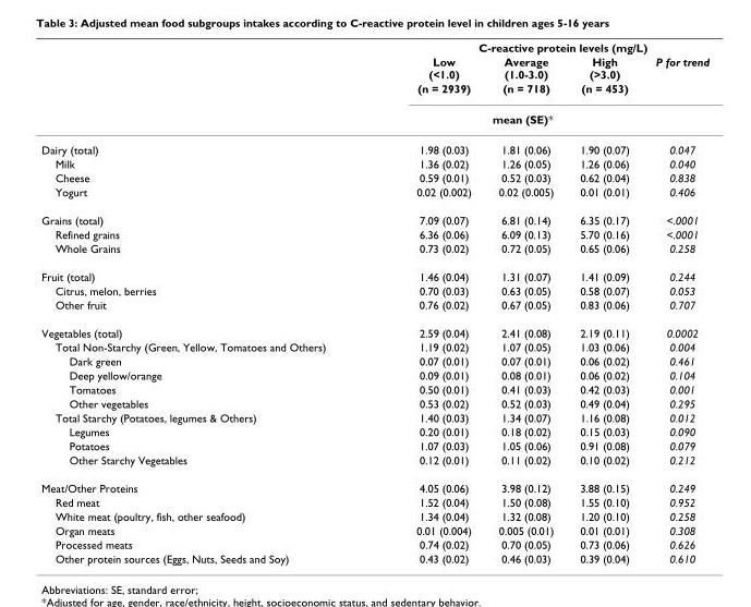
<table><thead><tr><td rowspan="4"></td><td colspan="4">C-reactive protein levels (mg/L)</td></tr><tr><td rowspan="2">Low (&lt;1.0) (n = 2939)</td><td rowspan="2">Average (1.0-3.0) (n = 718)</td><td rowspan="2">High (&gt;3.0) (n = 453)</td><td rowspan="3">P for trend</td></tr><tr></tr><tr><td colspan="3">mean (SE)*</td></tr></thead><tbody><tr><td>Dairy (total)</td><td>1.98 (0.03)</td><td>1.81 (0.06)</td><td>1.90 (0.07)</td><td>0.047</td></tr><tr><td>Milk</td><td>1.36 (0.02)</td><td>1.26 (0.05)</td><td>1.26 (0.06)</td><td>0.040</td></tr><tr><td>Cheese</td><td>0.59 (0.01)</td><td>0.52 (0.03)</td><td>0.62 (0.04)</td><td>0.838</td></tr><tr><td>Yogurt</td><td>0.02 (0.002)</td><td>0.02 (0.005)</td><td>0.01 (0.01)</td><td>0.406</td></tr><tr><td>Grains (total)</td><td>7.09 (0.07)</td><td>6.81 (0.14)</td><td>6.35 (0.17)</td><td>&lt;.0001</td></tr><tr><td>Refined grains</td><td>6.36 (0.06)</td><td>6.09 (0.13)</td><td>5.70 (0.16)</td><td>&lt;.0001</td></tr><tr><td>Whole Grains</td><td>0.73 (0.02)</td><td>0.72 (0.05)</td><td>0.65 (0.06)</td><td>0.258</td></tr><tr><td>Fruit (total)</td><td>1.46 (0.04)</td><td>1.31 (0.07)</td><td>1.41 (0.09)</td><td>0.244</td></tr><tr><td>Citrus, melon, berries</td><td>0.70 (0.03)</td><td>0.63 (0.05)</td><td>0.58 (0.07)</td><td>0.053</td></tr><tr><td>Other fruit</td><td>0.76 (0.02)</td><td>0.67 (0.05)</td><td>0.83 (0.06)</td><td>0.707</td></tr><tr><td>Vegetables (total)</td><td>2.59 (0.04)</td><td>2.41 (0.08)</td><td>2.19 (0.11)</td><td>0.0002</td></tr><tr><td>Total Non-Starchy (Green, Yellow, Tomatoes and Others)</td><td>1.19 (0.02)</td><td>1.07 (0.05)</td><td>1.03 (0.06)</td><td>0.004</td></tr><tr><td>Dark green</td><td>0.07 (0.01)</td><td>0.07 (0.01)</td><td>0.06 (0.02)</td><td>0.461</td></tr><tr><td>Deep yellow/orange</td><td>0.09 (0.01)</td><td>0.08 (0.01)</td><td>0.06 (0.02)</td><td>0.104</td></tr><tr><td>Tomatoes</td><td>0.50 (0.01)</td><td>0.41 (0.03)</td><td>0.42 (0.03)</td><td>0.001</td></tr><tr><td>Other vegetables</td><td>0.53 (0.02)</td><td>0.52 (0.03)</td><td>0.49 (0.04)</td><td>0.295</td></tr><tr><td>Total Starchy (Potatoes, legumes &amp; Others)</td><td>1.40 (0.03)</td><td>1.34 (0.07)</td><td>1.16 (0.08)</td><td>0.012</td></tr><tr><td>Legumes</td><td>0.20 (0.01)</td><td>0.18 (0.02)</td><td>0.15 (0.03)</td><td>0.090</td></tr><tr><td>Potatoes</td><td>1.07 (0.03)</td><td>1.05 (0.06)</td><td>0.91 (0.08)</td><td>0.079</td></tr><tr><td>Other Starchy Vegetables</td><td>0.12 (0.01)</td><td>0.11 (0.02)</td><td>0.10 (0.02)</td><td>0.212</td></tr><tr><td>Meat/Other Proteins</td><td>4.05 (0.06)</td><td>3.98 (0.12)</td><td>3.88 (0.15)</td><td>0.249</td></tr><tr><td>Red meat</td><td>1.52 (0.04)</td><td>1.50 (0.08)</td><td>1.55 (0.10)</td><td>0.952</td></tr><tr><td>White meat (poultry, fish, other seafood)</td><td>1.34 (0.04)</td><td>1.32 (0.08)</td><td>1.20 (0.10)</td><td>0.258</td></tr><tr><td>Organ meats</td><td>0.01 (0.004)</td><td>0.005 (0.01)</td><td>0.01 (0.01)</td><td>0.308</td></tr><tr><td>Processed meats</td><td>0.74 (0.02)</td><td>0.70 (0.05)</td><td>0.73 (0.06)</td><td>0.626</td></tr><tr><td>Other protein sources (Eggs, Nuts, Seeds and Soy)</td><td>0.43 (0.02)</td><td>0.46 (0.03)</td><td>0.39 (0.04)</td><td>0.610</td></tr></tbody></table>